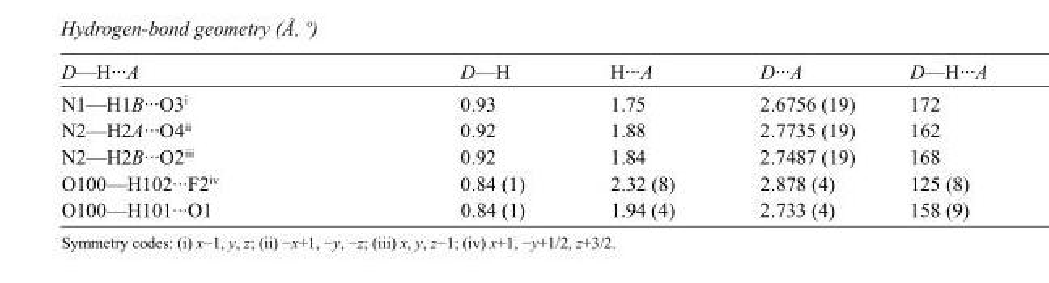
<table><tbody><tr><td>D—H···A</td><td>D—H</td><td>H···A</td><td>D···A</td><td>D—H···A</td></tr><tr><td>N1—H1B···O3<sup>i</sup></td><td>0.93</td><td>1.75</td><td>2.6756 (19)</td><td>172</td></tr><tr><td>N2—H2A···O4<sup>ii</sup></td><td>0.92</td><td>1.88</td><td>2.7735 (19)</td><td>162</td></tr><tr><td>N2—H2B···O2<sup>iii</sup></td><td>0.92</td><td>1.84</td><td>2.7487 (19)</td><td>168</td></tr><tr><td>O100—H102···F2<sup>iv</sup></td><td>0.84 (1)</td><td>2.32 (8)</td><td>2.878 (4)</td><td>125 (8)</td></tr><tr><td>O100—H101···O1</td><td>0.84 (1)</td><td>1.94 (4)</td><td>2.733 (4)</td><td>158 (9)</td></tr></tbody></table>